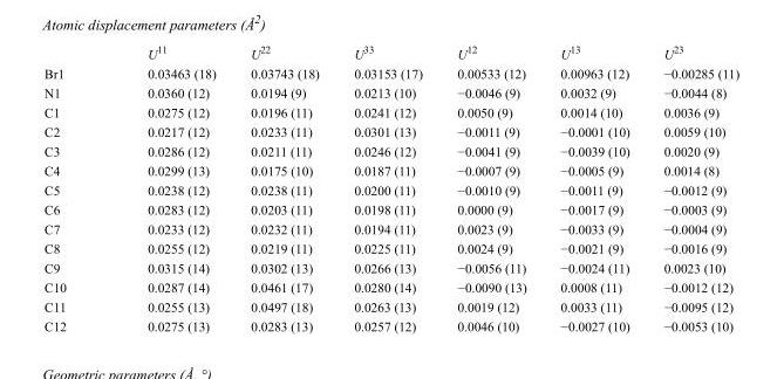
<table><thead><tr><td></td><td>U<sup>11</sup></td><td>U<sup>22</sup></td><td>U<sup>33</sup></td><td>U<sup>12</sup></td><td>U<sup>13</sup></td><td>U<sup>23</sup></td></tr></thead><tbody><tr><td>Br1</td><td>0.03463 (18)</td><td>0.03743 (18)</td><td>0.03153 (17)</td><td>0.00533 (12)</td><td>0.00963 (12)</td><td>−0.00285 (11)</td></tr><tr><td>N1</td><td>0.0360 (12)</td><td>0.0194 (9)</td><td>0.0213 (10)</td><td>−0.0046 (9)</td><td>0.0032 (9)</td><td>−0.0044 (8)</td></tr><tr><td>C1</td><td>0.0275 (12)</td><td>0.0196 (11)</td><td>0.0241 (12)</td><td>0.0050 (9)</td><td>0.0014 (10)</td><td>0.0036 (9)</td></tr><tr><td>C2</td><td>0.0217 (12)</td><td>0.0233 (11)</td><td>0.0301 (13)</td><td>−0.0011 (9)</td><td>−0.0001 (10)</td><td>0.0059 (10)</td></tr><tr><td>C3</td><td>0.0286 (12)</td><td>0.0211 (11)</td><td>0.0246 (12)</td><td>−0.0041 (9)</td><td>−0.0039 (10)</td><td>0.0020 (9)</td></tr><tr><td>C4</td><td>0.0299 (13)</td><td>0.0175 (10)</td><td>0.0187 (11)</td><td>−0.0007 (9)</td><td>−0.0005 (9)</td><td>0.0014 (8)</td></tr><tr><td>C5</td><td>0.0238 (12)</td><td>0.0238 (11)</td><td>0.0200 (11)</td><td>−0.0010 (9)</td><td>−0.0011 (9)</td><td>−0.0012 (9)</td></tr><tr><td>C6</td><td>0.0283 (12)</td><td>0.0203 (11)</td><td>0.0198 (11)</td><td>0.0000 (9)</td><td>−0.0017 (9)</td><td>−0.0003 (9)</td></tr><tr><td>C7</td><td>0.0233 (12)</td><td>0.0232 (11)</td><td>0.0194 (11)</td><td>0.0023 (9)</td><td>−0.0033 (9)</td><td>−0.0004 (9)</td></tr><tr><td>C8</td><td>0.0255 (12)</td><td>0.0219 (11)</td><td>0.0225 (11)</td><td>0.0024 (9)</td><td>−0.0021 (9)</td><td>−0.0016 (9)</td></tr><tr><td>C9</td><td>0.0315 (14)</td><td>0.0302 (13)</td><td>0.0266 (13)</td><td>−0.0056 (11)</td><td>−0.0024 (11)</td><td>0.0023 (10)</td></tr><tr><td>C10</td><td>0.0287 (14)</td><td>0.0461 (17)</td><td>0.0280 (14)</td><td>−0.0090 (13)</td><td>0.0008 (11)</td><td>−0.0012 (12)</td></tr><tr><td>C11</td><td>0.0255 (13)</td><td>0.0497 (18)</td><td>0.0263 (13)</td><td>0.0019 (12)</td><td>0.0033 (11)</td><td>−0.0095 (12)</td></tr><tr><td>C12</td><td>0.0275 (13)</td><td>0.0283 (13)</td><td>0.0257 (12)</td><td>0.0046 (10)</td><td>−0.0027 (10)</td><td>−0.0053 (10)</td></tr></tbody></table>